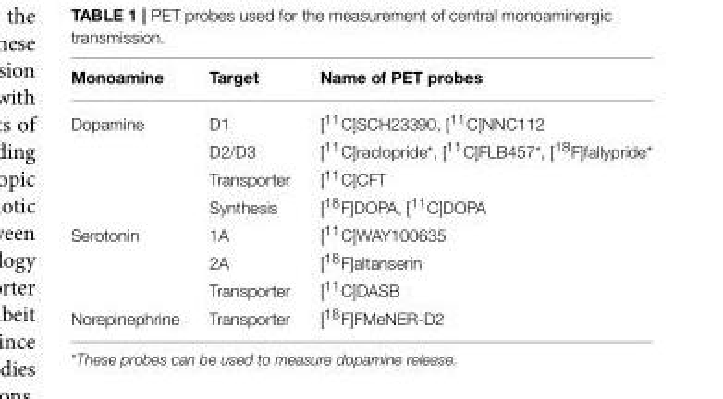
<table><thead><tr><td>Monoamine</td><td>Target</td><td>Name of PET probes</td></tr></thead><tbody><tr><td rowspan="4">Dopamine</td><td>D1</td><td>[<sup>11</sup>C]SCH23390, [<sup>11</sup>C]NNC112</td></tr><tr><td>D2/D3</td><td>[<sup>11</sup>C]raclopride*, [<sup>11</sup>C]FLB457*, [<sup>18</sup>F]fallypride*</td></tr><tr><td>Transporter</td><td>[<sup>11</sup>C]CFT</td></tr><tr><td>Synthesis</td><td>[<sup>18</sup>F]DOPA, [<sup>11</sup>C]DOPA</td></tr><tr><td rowspan="3">Serotonin</td><td>1A</td><td>[<sup>11</sup>C]WAY100635</td></tr><tr><td>2A</td><td>[<sup>18</sup>F]altanserin</td></tr><tr><td>Transporter</td><td>[<sup>11</sup>C]DASB</td></tr><tr><td>Norepinephrine</td><td>Transporter</td><td>[<sup>18</sup>F]FMeNER-D2</td></tr></tbody></table>